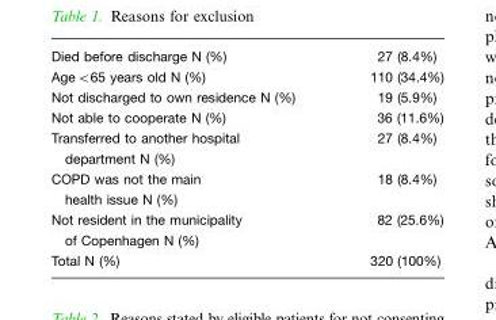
<table><tbody><tr><td>Died before discharge N (%)</td><td>27 (8.4%)</td></tr><tr><td>Age&lt;65 years old N (%)</td><td>110 (34.4%)</td></tr><tr><td>Not discharged to own residence N (%)</td><td>19 (5.9%)</td></tr><tr><td>Not able to cooperate N (%)</td><td>36 (11.6%)</td></tr><tr><td>Transferred to another hospital department N (%)</td><td>27 (8.4%)</td></tr><tr><td>COPD was not the main health issue N (%)</td><td>18 (8.4%)</td></tr><tr><td>Not resident in the municipality of Copenhagen N (%)</td><td>82 (25.6%)</td></tr><tr><td>Total N (%)</td><td>320 (100%)</td></tr></tbody></table>